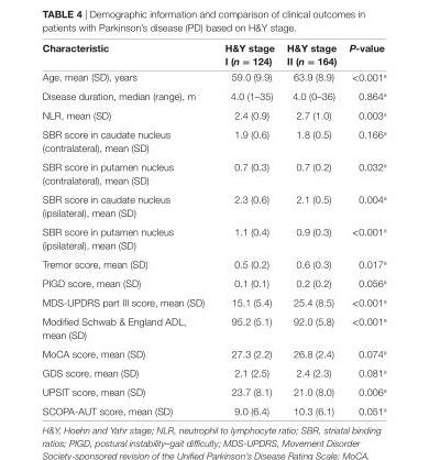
<table><thead><tr><td>characteristic</td><td>h&amp;Y stage i (n = 124)</td><td>h&amp;Y stage ii (n = 164)</td><td>P-value</td></tr></thead><tbody><tr><td>Age, mean (SD), years</td><td>59.0 (9.9)</td><td>63.9 (8.9)</td><td>&lt;0.001<sup>a</sup></td></tr><tr><td>Disease duration, median (range), m</td><td>4.0 (1–35)</td><td>4.0 (0–36)</td><td>0.864<sup>a</sup></td></tr><tr><td>NLR, mean (SD)</td><td>2.4 (0.9)</td><td>2.7 (1.0)</td><td>0.003<sup>a</sup></td></tr><tr><td>SBR score in caudate nucleus (contralateral), mean (SD)</td><td>1.9 (0.6)</td><td>1.8 (0.5)</td><td>0.166<sup>a</sup></td></tr><tr><td>SBR score in putamen nucleus (contralateral), mean (SD)</td><td>0.7 (0.3)</td><td>0.7 (0.2)</td><td>0.032<sup>a</sup></td></tr><tr><td>SBR score in caudate nucleus (ipsilateral), mean (SD)</td><td>2.3 (0.6)</td><td>2.1 (0.5)</td><td>0.004<sup>a</sup></td></tr><tr><td>SBR score in putamen nucleus (ipsilateral), mean (SD)</td><td>1.1 (0.4)</td><td>0.9 (0.3)</td><td>&lt;0.001<sup>a</sup></td></tr><tr><td>Tremor score, mean (SD)</td><td>0.5 (0.2)</td><td>0.6 (0.3)</td><td>0.017<sup>a</sup></td></tr><tr><td>PIGD score, mean (SD)</td><td>0.1 (0.1)</td><td>0.2 (0.2)</td><td>0.056<sup>a</sup></td></tr><tr><td>MDS-UPDRS part III score, mean (SD)</td><td>15.1 (5.4)</td><td>25.4 (8.5)</td><td>&lt;0.001<sup>a</sup></td></tr><tr><td>Modified Schwab &amp; England ADL, mean (SD)</td><td>95.2 (5.1)</td><td>92.0 (5.8)</td><td>&lt;0.001<sup>a</sup></td></tr><tr><td>MoCA score, mean (SD)</td><td>27.3 (2.2)</td><td>26.8 (2.4)</td><td>0.074<sup>a</sup></td></tr><tr><td>GDS score, mean (SD)</td><td>2.1 (2.5)</td><td>2.4 (2.3)</td><td>0.081<sup>a</sup></td></tr><tr><td>UPSIT score, mean (SD)</td><td>23.7 (8.1)</td><td>21.0 (8.0)</td><td>0.006<sup>a</sup></td></tr><tr><td>SCOPA-AUT score, mean (SD)</td><td>9.0 (6.4)</td><td>10.3 (6.1)</td><td>0.051<sup>a</sup></td></tr></tbody></table>